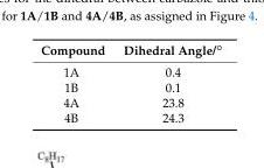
<table><thead><tr><td>Compound</td><td>Dihedral Angle/◦</td></tr></thead><tbody><tr><td>1A</td><td>0.4</td></tr><tr><td>1B</td><td>0.1</td></tr><tr><td>4A</td><td>23.8</td></tr><tr><td>4B</td><td>24.3</td></tr></tbody></table>